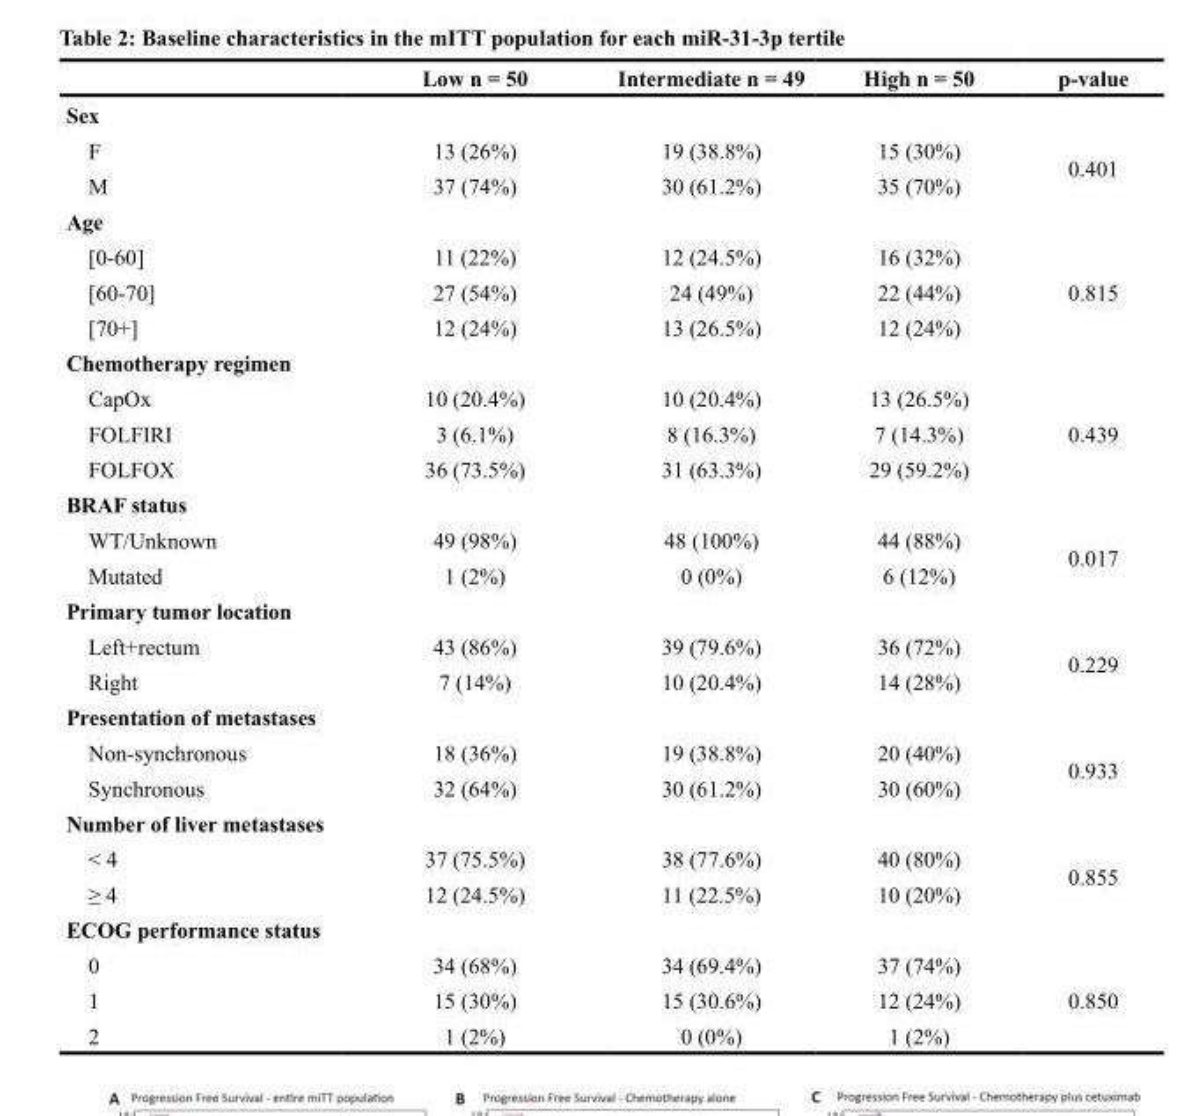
<table><thead><tr><td></td><td>Low n = 50</td><td>Intermediate n = 49</td><td>High n = 50</td><td>p-value</td></tr></thead><tbody><tr><td colspan="5">Sex</td></tr><tr><td>F</td><td>13 (26%)</td><td>19 (38.8%)</td><td>15 (30%)</td><td rowspan="2">0.401</td></tr><tr><td>M</td><td>37 (74%)</td><td>30 (61.2%)</td><td>35 (70%)</td></tr><tr><td colspan="5">Age</td></tr><tr><td>[0-60]</td><td>11 (22%)</td><td>12 (24.5%)</td><td>16 (32%)</td><td rowspan="3">0.815</td></tr><tr><td>[60-70]</td><td>27 (54%)</td><td>24 (49%)</td><td>22 (44%)</td></tr><tr><td>[70+]</td><td>12 (24%)</td><td>13 (26.5%)</td><td>12 (24%)</td></tr><tr><td colspan="5">Chemotherapy regimen</td></tr><tr><td>CapOx</td><td>10 (20.4%)</td><td>10 (20.4%)</td><td>13 (26.5%)</td><td rowspan="3">0.439</td></tr><tr><td>FOLFIRI</td><td>3 (6.1%)</td><td>8 (16.3%)</td><td>7 (14.3%)</td></tr><tr><td>FOLFOX</td><td>36 (73.5%)</td><td>31 (63.3%)</td><td>29 (59.2%)</td></tr><tr><td colspan="5">BRAF status</td></tr><tr><td>WT/Unknown</td><td>49 (98%)</td><td>48 (100%)</td><td>44 (88%)</td><td rowspan="2">0.017</td></tr><tr><td>Mutated</td><td>1 (2%)</td><td>0 (0%)</td><td>6 (12%)</td></tr><tr><td colspan="5">Primary tumor location</td></tr><tr><td>Left+rectum</td><td>43 (86%)</td><td>39 (79.6%)</td><td>36 (72%)</td><td rowspan="2">0.229</td></tr><tr><td>Right</td><td>7 (14%)</td><td>10 (20.4%)</td><td>14 (28%)</td></tr><tr><td colspan="5">Presentation of metastases</td></tr><tr><td>Non-synchronous</td><td>18 (36%)</td><td>19 (38.8%)</td><td>20 (40%)</td><td rowspan="2">0.933</td></tr><tr><td>Synchronous</td><td>32 (64%)</td><td>30 (61.2%)</td><td>30 (60%)</td></tr><tr><td colspan="5">Number of liver metastases</td></tr><tr><td>&lt; 4</td><td>37 (75.5%)</td><td>38 (77.6%)</td><td>40 (80%)</td><td rowspan="2">0.855</td></tr><tr><td>≥ 4</td><td>12 (24.5%)</td><td>11 (22.5%)</td><td>10 (20%)</td></tr><tr><td colspan="5">ECOG performance status</td></tr><tr><td>0</td><td>34 (68%)</td><td>34 (69.4%)</td><td>37 (74%)</td><td rowspan="3">0.850</td></tr><tr><td>1</td><td>15 (30%)</td><td>15 (30.6%)</td><td>12 (24%)</td></tr><tr><td>2</td><td>1 (2%)</td><td>0 (0%)</td><td>1 (2%)</td></tr></tbody></table>